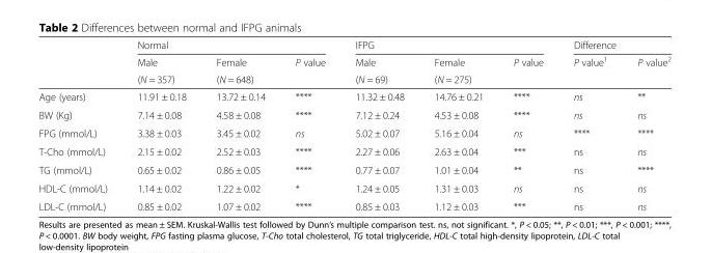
<table><thead><tr><td rowspan="3"></td><td colspan="3">Normal</td><td colspan="3">IFPG</td><td colspan="2">Difference</td></tr><tr><td rowspan="2">Male (N = 357)</td><td rowspan="2">Female (N = 648)</td><td rowspan="2">P value</td><td rowspan="2">Male (N = 69)</td><td rowspan="2">Female (N = 275)</td><td rowspan="2">P value</td><td rowspan="2">P value<sup>1</sup></td><td rowspan="2">P value<sup>2</sup></td></tr><tr></tr></thead><tbody><tr><td>Age (years)</td><td>11.91 ± 0.18</td><td>13.72 ± 0.14</td><td>****</td><td>11.32 ± 0.48</td><td>14.76 ± 0.21</td><td>****</td><td>ns</td><td>**</td></tr><tr><td>BW (Kg)</td><td>7.14 ± 0.08</td><td>4.58 ± 0.08</td><td>****</td><td>7.12 ± 0.24</td><td>4.53 ± 0.08</td><td>****</td><td>ns</td><td>ns</td></tr><tr><td>FPG (mmol/L)</td><td>3.38 ± 0.03</td><td>3.45 ± 0.02</td><td>ns</td><td>5.02 ± 0.07</td><td>5.16 ± 0.04</td><td>ns</td><td>****</td><td>****</td></tr><tr><td>T-Cho (mmol/L)</td><td>2.15 ± 0.02</td><td>2.52 ± 0.03</td><td>****</td><td>2.27 ± 0.06</td><td>2.63 ± 0.04</td><td>***</td><td>ns</td><td>ns</td></tr><tr><td>TG (mmol/L)</td><td>0.65 ± 0.02</td><td>0.86 ± 0.05</td><td>****</td><td>0.77 ± 0.07</td><td>1.01 ± 0.04</td><td>**</td><td>ns</td><td>****</td></tr><tr><td>HDL-C (mmol/L)</td><td>1.14 ± 0.02</td><td>1.22 ± 0.02</td><td>*</td><td>1.24 ± 0.05</td><td>1.31 ± 0.03</td><td>ns</td><td>ns</td><td>ns</td></tr><tr><td>LDL-C (mmol/L)</td><td>0.85 ± 0.02</td><td>1.07 ± 0.02</td><td>****</td><td>0.85 ± 0.03</td><td>1.12 ± 0.03</td><td>***</td><td>ns</td><td>ns</td></tr></tbody></table>